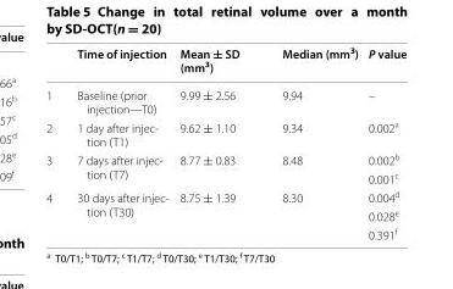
<table><thead><tr><td></td><td>Time of injection</td><td>Mean ± SD (mm<sup>3</sup>)</td><td>Median (mm<sup>3</sup>)</td><td>P value</td></tr></thead><tbody><tr><td>1</td><td>Baseline (prior injection—T0)</td><td>9.99 ± 2.56</td><td>9.94</td><td>–</td></tr><tr><td>2</td><td>1 day after injec- tion (T1)</td><td>9.62 ± 1.10</td><td>9.34</td><td>0.002<sup>a</sup></td></tr><tr><td rowspan="2">3</td><td rowspan="2">7 days after injec- tion (T7)</td><td rowspan="2">8.77 ± 0.83</td><td rowspan="2">8.48</td><td>0.002<sup>b</sup></td></tr><tr><td>0.001<sup>c</sup></td></tr><tr><td rowspan="3">4</td><td rowspan="3">30 days after injec- tion (T30)</td><td rowspan="3">8.75 ± 1.39</td><td rowspan="3">8.30</td><td>0.004<sup>d</sup></td></tr><tr><td>0.028<sup>e</sup></td></tr><tr><td>0.391<sup>f</sup></td></tr></tbody></table>